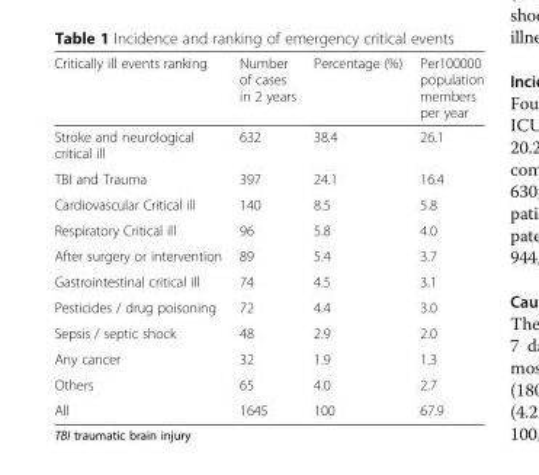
<table><thead><tr><td>Critically ill events ranking</td><td>Number of cases in 2 years</td><td>Percentage (%)</td><td>Per100000 population members per year</td></tr></thead><tbody><tr><td>Stroke and neurological critical ill</td><td>632</td><td>38.4</td><td>26.1</td></tr><tr><td>TBI and Trauma</td><td>397</td><td>24.1</td><td>16.4</td></tr><tr><td>Cardiovascular Critical ill</td><td>140</td><td>8.5</td><td>5.8</td></tr><tr><td>Respiratory Critical ill</td><td>96</td><td>5.8</td><td>4.0</td></tr><tr><td>After surgery or intervention</td><td>89</td><td>5.4</td><td>3.7</td></tr><tr><td>Gastrointestinal critical ill</td><td>74</td><td>4.5</td><td>3.1</td></tr><tr><td>Pesticides / drug poisoning</td><td>72</td><td>4.4</td><td>3.0</td></tr><tr><td>Sepsis / septic shock</td><td>48</td><td>2.9</td><td>2.0</td></tr><tr><td>Any cancer</td><td>32</td><td>1.9</td><td>1.3</td></tr><tr><td>Others</td><td>65</td><td>4.0</td><td>2.7</td></tr><tr><td>All</td><td>1645</td><td>100</td><td>67.9</td></tr></tbody></table>